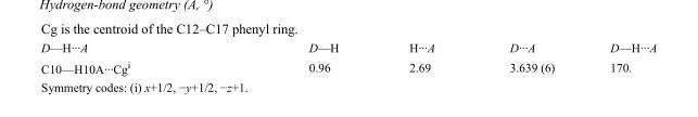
<table><tbody><tr><td>D—H···A</td><td>D—H</td><td>H···A</td><td>D···A</td><td>D—H···A</td></tr><tr><td>C10—H10A···Cg<sup>i</sup></td><td>0.96</td><td>2.69</td><td>3.639 (6)</td><td>170.</td></tr></tbody></table>